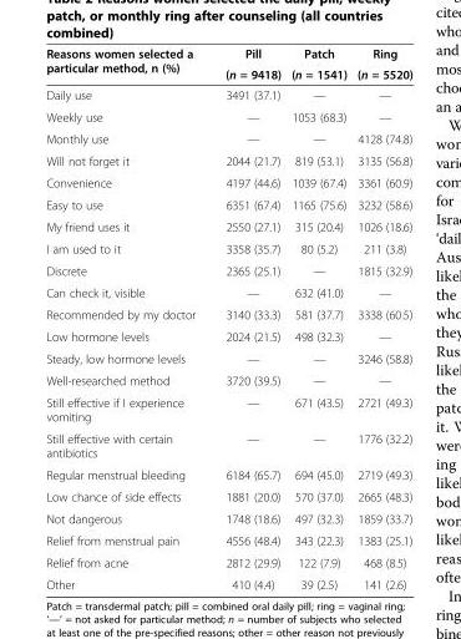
<table><thead><tr><td>Reasons women selected a particular method, n (%)</td><td>Pill (n = 9418)</td><td>Patch (n = 1541)</td><td>Ring (n = 5520)</td></tr></thead><tbody><tr><td>Daily use</td><td>3491 (37.1)</td><td>—</td><td>—</td></tr><tr><td>Weekly use</td><td>—</td><td>1053 (68.3)</td><td>—</td></tr><tr><td>Monthly use</td><td>—</td><td>—</td><td>4128 (74.8)</td></tr><tr><td>Will not forget it</td><td>2044 (21.7)</td><td>819 (53.1)</td><td>3135 (56.8)</td></tr><tr><td>Convenience</td><td>4197 (44.6)</td><td>1039 (67.4)</td><td>3361 (60.9)</td></tr><tr><td>Easy to use</td><td>6351 (67.4)</td><td>1165 (75.6)</td><td>3232 (58.6)</td></tr><tr><td>My friend uses it</td><td>2550 (27.1)</td><td>315 (20.4)</td><td>1026 (18.6)</td></tr><tr><td>I am used to it</td><td>3358 (35.7)</td><td>80 (5.2)</td><td>211 (3.8)</td></tr><tr><td>Discrete</td><td>2365 (25.1)</td><td>—</td><td>1815 (32.9)</td></tr><tr><td>Can check it, visible</td><td>—</td><td>632 (41.0)</td><td>—</td></tr><tr><td>Recommended by my doctor</td><td>3140 (33.3)</td><td>581 (37.7)</td><td>3338 (60.5)</td></tr><tr><td>Low hormone levels</td><td>2024 (21.5)</td><td>498 (32.3)</td><td>—</td></tr><tr><td>Steady, low hormone levels</td><td>—</td><td>—</td><td>3246 (58.8)</td></tr><tr><td>Well-researched method</td><td>3720 (39.5)</td><td>—</td><td>—</td></tr><tr><td>Still effective if I experience vomiting</td><td>—</td><td>671 (43.5)</td><td>2721 (49.3)</td></tr><tr><td>Still effective with certain antibiotics</td><td>—</td><td>—</td><td>1776 (32.2)</td></tr><tr><td>Regular menstrual bleeding</td><td>6184 (65.7)</td><td>694 (45.0)</td><td>2719 (49.3)</td></tr><tr><td>Low chance of side effects</td><td>1881 (20.0)</td><td>570 (37.0)</td><td>2665 (48.3)</td></tr><tr><td>Not dangerous</td><td>1748 (18.6)</td><td>497 (32.3)</td><td>1859 (33.7)</td></tr><tr><td>Relief from menstrual pain</td><td>4556 (48.4)</td><td>343 (22.3)</td><td>1383 (25.1)</td></tr><tr><td>Relief from acne</td><td>2812 (29.9)</td><td>122 (7.9)</td><td>468 (8.5)</td></tr><tr><td>Other</td><td>410 (4.4)</td><td>39 (2.5)</td><td>141 (2.6)</td></tr></tbody></table>